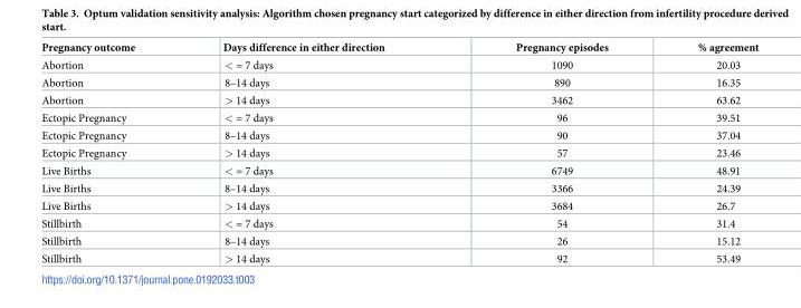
<table><thead><tr><td>Pregnancy outcome</td><td>Days difference in either direction</td><td>Pregnancy episodes</td><td>% agreement</td></tr></thead><tbody><tr><td>Abortion</td><td>&lt; = 7 days</td><td>1090</td><td>20.03</td></tr><tr><td>Abortion</td><td>8–14 days</td><td>890</td><td>16.35</td></tr><tr><td>Abortion</td><td>&gt; 14 days</td><td>3462</td><td>63.62</td></tr><tr><td>Ectopic Pregnancy</td><td>&lt; = 7 days</td><td>96</td><td>39.51</td></tr><tr><td>Ectopic Pregnancy</td><td>8–14 days</td><td>90</td><td>37.04</td></tr><tr><td>Ectopic Pregnancy</td><td>&gt; 14 days</td><td>57</td><td>23.46</td></tr><tr><td>Live Births</td><td>&lt; = 7 days</td><td>6749</td><td>48.91</td></tr><tr><td>Live Births</td><td>8–14 days</td><td>3366</td><td>24.39</td></tr><tr><td>Live Births</td><td>&gt; 14 days</td><td>3684</td><td>26.7</td></tr><tr><td>Stillbirth</td><td>&lt; = 7 days</td><td>54</td><td>31.4</td></tr><tr><td>Stillbirth</td><td>8–14 days</td><td>26</td><td>15.12</td></tr><tr><td>Stillbirth</td><td>&gt; 14 days</td><td>92</td><td>53.49</td></tr></tbody></table>